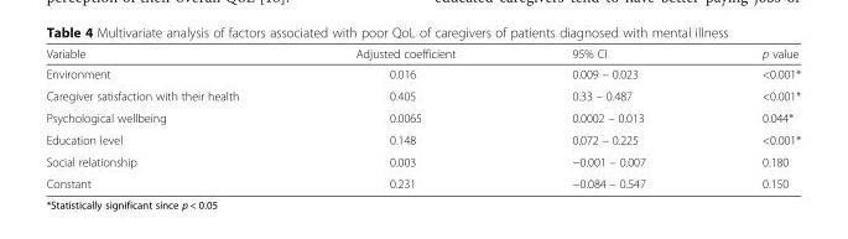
<table><thead><tr><td>Variable</td><td>Adjusted coefficient</td><td>95% CI</td><td>p value</td></tr></thead><tbody><tr><td>Environment</td><td>0.016</td><td>0.009 – 0.023</td><td>&lt;0.001*</td></tr><tr><td>Caregiver satisfaction with their health</td><td>0.405</td><td>0.33 – 0.487</td><td>&lt;0.001*</td></tr><tr><td>Psychological wellbeing</td><td>0.0065</td><td>0.0002 – 0.013</td><td>0.044*</td></tr><tr><td>Education level</td><td>0.148</td><td>0.072 – 0.225</td><td>&lt;0.001*</td></tr><tr><td>Social relationship</td><td>0.003</td><td>−0.001 – 0.007</td><td>0.180</td></tr><tr><td>Constant</td><td>0.231</td><td>−0.084 – 0.547</td><td>0.150</td></tr></tbody></table>